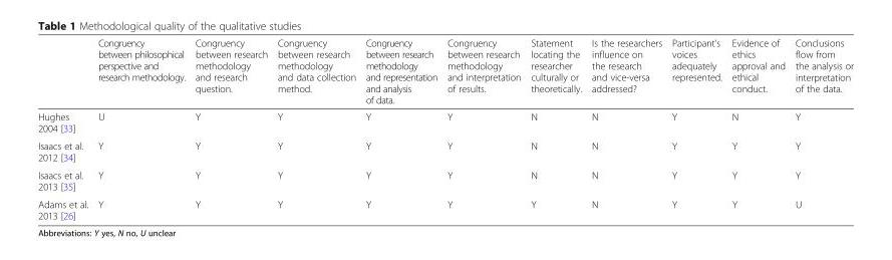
<table><thead><tr><td></td><td>Congruency between philosophical perspective and research methodology.</td><td>Congruency between research methodology and research question.</td><td>Congruency between research methodology and data collection method.</td><td>Congruency between research methodology and representation and analysis of data.</td><td>Congruency between research methodology and interpretation of results.</td><td>Statement locating the researcher culturally or theoretically.</td><td>Is the researchers influence on the research and vice-versa addressed?</td><td>Participant’s voices adequately represented.</td><td>Evidence of ethics approval and ethical conduct.</td><td>Conclusions flow from the analysis or interpretation of the data.</td></tr></thead><tbody><tr><td>Hughes 2004 [33]</td><td>U</td><td>Y</td><td>Y</td><td>Y</td><td>Y</td><td>N</td><td>N</td><td>Y</td><td>N</td><td>Y</td></tr><tr><td>Isaacs et al. 2012 [34]</td><td>Y</td><td>Y</td><td>Y</td><td>Y</td><td>Y</td><td>N</td><td>N</td><td>Y</td><td>Y</td><td>Y</td></tr><tr><td>Isaacs et al. 2013 [35]</td><td>Y</td><td>Y</td><td>Y</td><td>Y</td><td>Y</td><td>N</td><td>N</td><td>Y</td><td>Y</td><td>Y</td></tr><tr><td>Adams et al. 2013 [26]</td><td>Y</td><td>Y</td><td>Y</td><td>Y</td><td>Y</td><td>Y</td><td>N</td><td>Y</td><td>Y</td><td>U</td></tr></tbody></table>